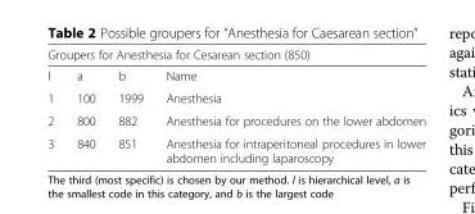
<table><thead><tr><td colspan="4">Groupers for Anesthesia for Cesarean section (850)</td></tr><tr><td>l</td><td>a</td><td>b</td><td>Name</td></tr></thead><tbody><tr><td>1</td><td>100</td><td>1999</td><td>Anesthesia</td></tr><tr><td>2</td><td>800</td><td>882</td><td>Anesthesia for procedures on the lower abdomen</td></tr><tr><td>3</td><td>840</td><td>851</td><td>Anesthesia for intraperitoneal procedures in lower abdomen including laparoscopy</td></tr></tbody></table>